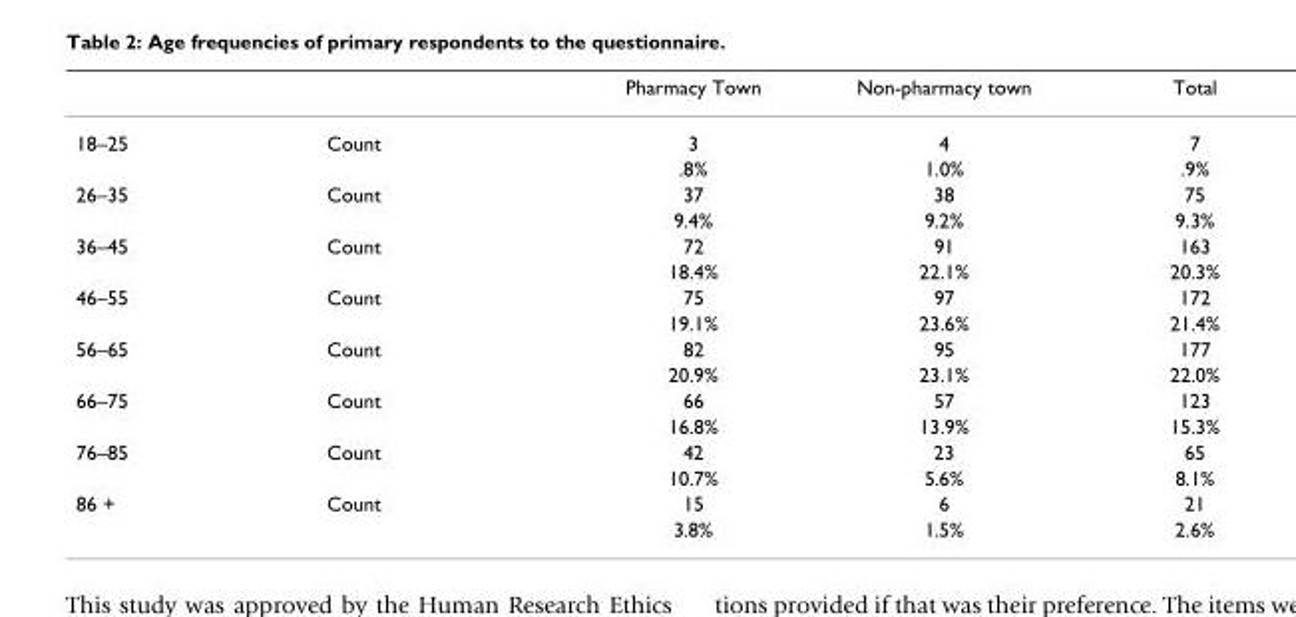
<table><thead><tr><td></td><td></td><td>Pharmacy Town</td><td>Non-pharmacy town</td><td>Total</td></tr></thead><tbody><tr><td rowspan="2">18–25</td><td>Count</td><td>3</td><td>4</td><td>7</td></tr><tr><td></td><td>.8%</td><td>1.0%</td><td>.9%</td></tr><tr><td rowspan="2">26–35</td><td>Count</td><td>37</td><td>38</td><td>75</td></tr><tr><td></td><td>9.4%</td><td>9.2%</td><td>9.3%</td></tr><tr><td rowspan="2">36–45</td><td>Count</td><td>72</td><td>91</td><td>163</td></tr><tr><td></td><td>18.4%</td><td>22.1%</td><td>20.3%</td></tr><tr><td rowspan="2">46–55</td><td>Count</td><td>75</td><td>97</td><td>172</td></tr><tr><td></td><td>19.1%</td><td>23.6%</td><td>21.4%</td></tr><tr><td rowspan="2">56–65</td><td>Count</td><td>82</td><td>95</td><td>177</td></tr><tr><td></td><td>20.9%</td><td>23.1%</td><td>22.0%</td></tr><tr><td rowspan="2">66–75</td><td>Count</td><td>66</td><td>57</td><td>123</td></tr><tr><td></td><td>16.8%</td><td>13.9%</td><td>15.3%</td></tr><tr><td rowspan="2">76–85</td><td>Count</td><td>42</td><td>23</td><td>65</td></tr><tr><td></td><td>10.7%</td><td>5.6%</td><td>8.1%</td></tr><tr><td rowspan="2">86 +</td><td>Count</td><td>15</td><td>6</td><td>21</td></tr><tr><td></td><td>3.8%</td><td>1.5%</td><td>2.6%</td></tr></tbody></table>